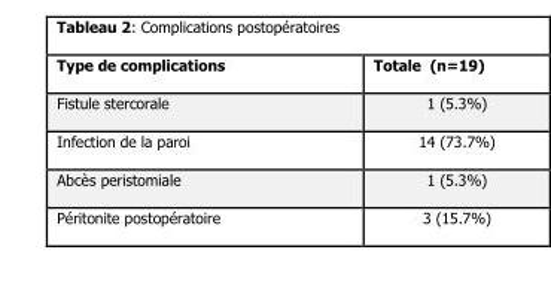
<table><thead><tr><td>Type de complications</td><td>Totale (n=19)</td></tr></thead><tbody><tr><td>Fistule stercorale</td><td>1 (5.3%)</td></tr><tr><td>Infection de la paroi</td><td>14 (73.7%)</td></tr><tr><td>Abcès peristomiale</td><td>1 (5.3%)</td></tr><tr><td>Péritonite postopératoire</td><td>3 (15.7%)</td></tr></tbody></table>